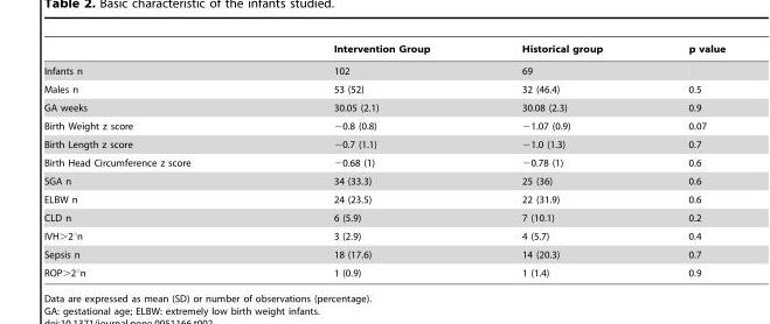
<table><thead><tr><td></td><td>Intervention Group</td><td>Historical group</td><td>p value</td></tr></thead><tbody><tr><td>Infants n</td><td>102</td><td>69</td><td></td></tr><tr><td>Males n</td><td>53 (52)</td><td>32 (46.4)</td><td>0.5</td></tr><tr><td>GA weeks</td><td>30.05 (2.1)</td><td>30.08 (2.3)</td><td>0.9</td></tr><tr><td>Birth Weight z score</td><td>−0.8 (0.8)</td><td>−1.07 (0.9)</td><td>0.07</td></tr><tr><td>Birth Length z score</td><td>−0.7 (1.1)</td><td>−1.0 (1.3)</td><td>0.7</td></tr><tr><td>Birth Head Circumference z score</td><td>−0.68 (1)</td><td>−0.78 (1)</td><td>0.6</td></tr><tr><td>SGA n</td><td>34 (33.3)</td><td>25 (36)</td><td>0.6</td></tr><tr><td>ELBW n</td><td>24 (23.5)</td><td>22 (31.9)</td><td>0.6</td></tr><tr><td>CLD n</td><td>6 (5.9)</td><td>7 (10.1)</td><td>0.2</td></tr><tr><td>IVH&gt;2°n</td><td>3 (2.9)</td><td>4 (5.7)</td><td>0.4</td></tr><tr><td>Sepsis n</td><td>18 (17.6)</td><td>14 (20.3)</td><td>0.7</td></tr><tr><td>ROP&gt;2°n</td><td>1 (0.9)</td><td>1 (1.4)</td><td>0.9</td></tr></tbody></table>